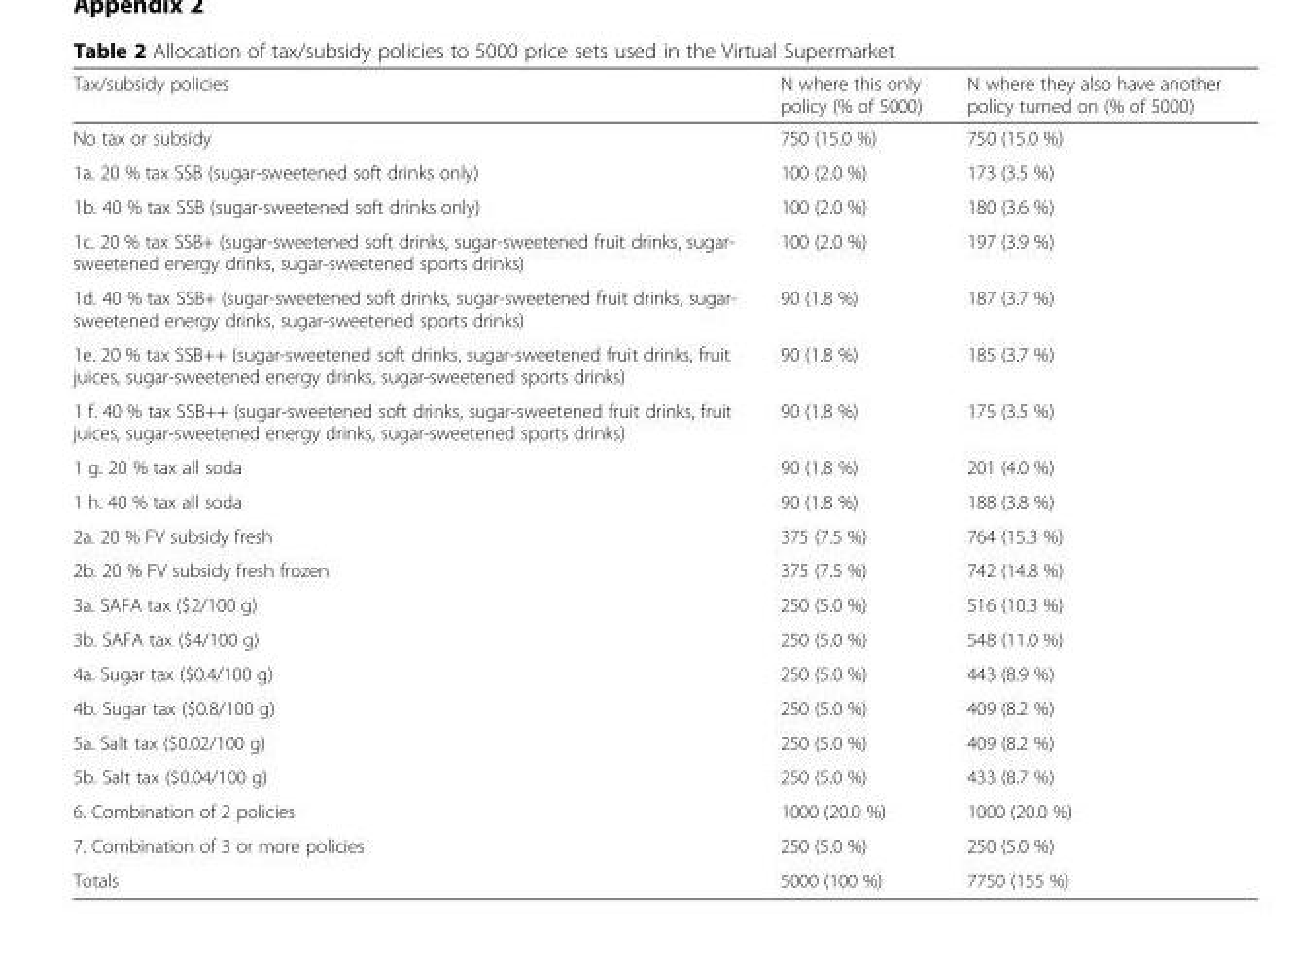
<table><thead><tr><td>Tax/subsidy policies</td><td>N where this only policy (% of 5000)</td><td>N where they also have another policy turned on (% of 5000)</td></tr></thead><tbody><tr><td>No tax or subsidy</td><td>750 (15.0 %)</td><td>750 (15.0 %)</td></tr><tr><td>1a. 20 % tax SSB (sugar-sweetened soft drinks only)</td><td>100 (2.0 %)</td><td>173 (3.5 %)</td></tr><tr><td>1b. 40 % tax SSB (sugar-sweetened soft drinks only)</td><td>100 (2.0 %)</td><td>180 (3.6 %)</td></tr><tr><td>1c. 20 % tax SSB+ (sugar-sweetened soft drinks, sugar-sweetened fruit drinks, sugar- sweetened energy drinks, sugar-sweetened sports drinks)</td><td>100 (2.0 %)</td><td>197 (3.9 %)</td></tr><tr><td>1d. 40 % tax SSB+ (sugar-sweetened soft drinks, sugar-sweetened fruit drinks, sugar- sweetened energy drinks, sugar-sweetened sports drinks)</td><td>90 (1.8 %)</td><td>187 (3.7 %)</td></tr><tr><td>1e. 20 % tax SSB++ (sugar-sweetened soft drinks, sugar-sweetened fruit drinks, fruit juices, sugar-sweetened energy drinks, sugar-sweetened sports drinks)</td><td>90 (1.8 %)</td><td>185 (3.7 %)</td></tr><tr><td>1 f. 40 % tax SSB++ (sugar-sweetened soft drinks, sugar-sweetened fruit drinks, fruit juices, sugar-sweetened energy drinks, sugar-sweetened sports drinks)</td><td>90 (1.8 %)</td><td>175 (3.5 %)</td></tr><tr><td>1 g. 20 % tax all soda</td><td>90 (1.8 %)</td><td>201 (4.0 %)</td></tr><tr><td>1 h. 40 % tax all soda</td><td>90 (1.8 %)</td><td>188 (3.8 %)</td></tr><tr><td>2a. 20 % FV subsidy fresh</td><td>375 (7.5 %)</td><td>764 (15.3 %)</td></tr><tr><td>2b. 20 % FV subsidy fresh frozen</td><td>375 (7.5 %)</td><td>742 (14.8 %)</td></tr><tr><td>3a. SAFA tax ($2/100 g)</td><td>250 (5.0 %)</td><td>516 (10.3 %)</td></tr><tr><td>3b. SAFA tax ($4/100 g)</td><td>250 (5.0 %)</td><td>548 (11.0 %)</td></tr><tr><td>4a. Sugar tax ($0.4/100 g)</td><td>250 (5.0 %)</td><td>443 (8.9 %)</td></tr><tr><td>4b. Sugar tax ($0.8/100 g)</td><td>250 (5.0 %)</td><td>409 (8.2 %)</td></tr><tr><td>5a. Salt tax ($0.02/100 g)</td><td>250 (5.0 %)</td><td>409 (8.2 %)</td></tr><tr><td>5b. Salt tax ($0.04/100 g)</td><td>250 (5.0 %)</td><td>433 (8.7 %)</td></tr><tr><td>6. Combination of 2 policies</td><td>1000 (20.0 %)</td><td>1000 (20.0 %)</td></tr><tr><td>7. Combination of 3 or more policies</td><td>250 (5.0 %)</td><td>250 (5.0 %)</td></tr><tr><td>Totals</td><td>5000 (100 %)</td><td>7750 (155 %)</td></tr></tbody></table>